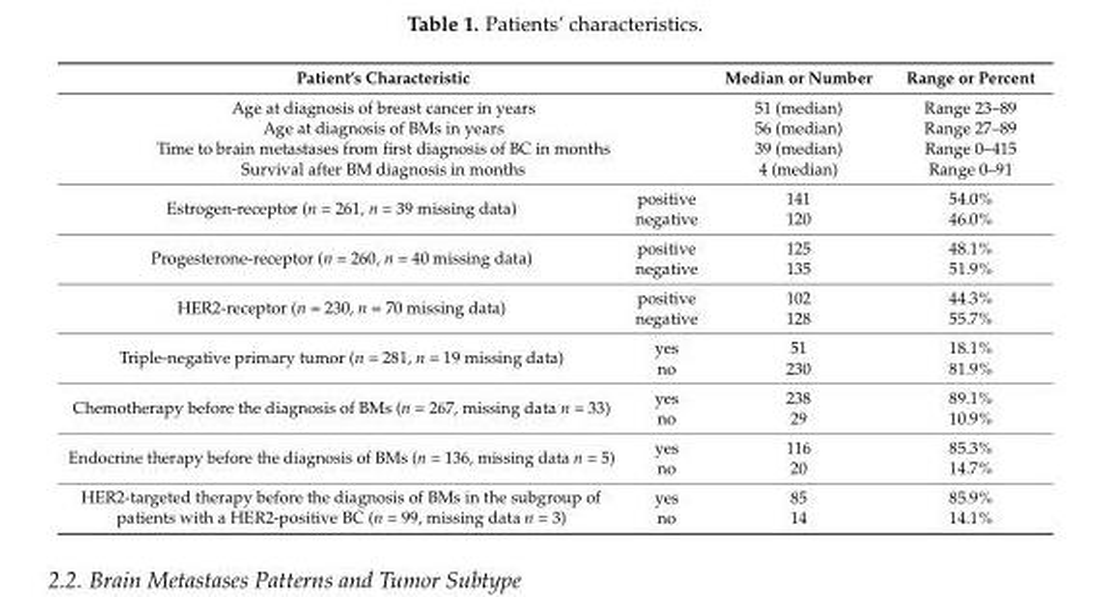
<table><thead><tr><td colspan="2">Patient’s Characteristic</td><td>Median or Number</td><td>Range or Percent</td></tr></thead><tbody><tr><td colspan="2">Age at diagnosis of breast cancer in years</td><td>51 (median)</td><td>Range 23–89</td></tr><tr><td colspan="2">Age at diagnosis of BMs in years</td><td>56 (median)</td><td>Range 27–89</td></tr><tr><td colspan="2">Time to brain metastases from first diagnosis of BC in months</td><td>39 (median)</td><td>Range 0–415</td></tr><tr><td colspan="2">Survival after BM diagnosis in months</td><td>4 (median)</td><td>Range 0–91</td></tr><tr><td rowspan="2">Estrogen-receptor (n = 261, n = 39 missing data)</td><td>positive</td><td>141</td><td>54.0%</td></tr><tr><td>negative</td><td>120</td><td>46.0%</td></tr><tr><td rowspan="2">Progesterone-receptor (n = 260, n = 40 missing data)</td><td>positive</td><td>125</td><td>48.1%</td></tr><tr><td>negative</td><td>135</td><td>51.9%</td></tr><tr><td rowspan="2">HER2-receptor (n = 230, n = 70 missing data)</td><td>positive</td><td>102</td><td>44.3%</td></tr><tr><td>negative</td><td>128</td><td>55.7%</td></tr><tr><td rowspan="2">Triple-negative primary tumor (n = 281, n = 19 missing data)</td><td>yes</td><td>51</td><td>18.1%</td></tr><tr><td>no</td><td>230</td><td>81.9%</td></tr><tr><td rowspan="2">Chemotherapy before the diagnosis of BMs (n = 267, missing data n = 33)</td><td>yes</td><td>238</td><td>89.1%</td></tr><tr><td>no</td><td>29</td><td>10.9%</td></tr><tr><td rowspan="2">Endocrine therapy before the diagnosis of BMs (n = 136, missing data n = 5)</td><td>yes</td><td>116</td><td>85.3%</td></tr><tr><td>no</td><td>20</td><td>14.7%</td></tr><tr><td rowspan="2">HER2-targeted therapy before the diagnosis of BMs in the subgroup of patients with a HER2-positive BC (n = 99, missing data n = 3)</td><td>yes</td><td>85</td><td>85.9%</td></tr><tr><td>no</td><td>14</td><td>14.1%</td></tr></tbody></table>